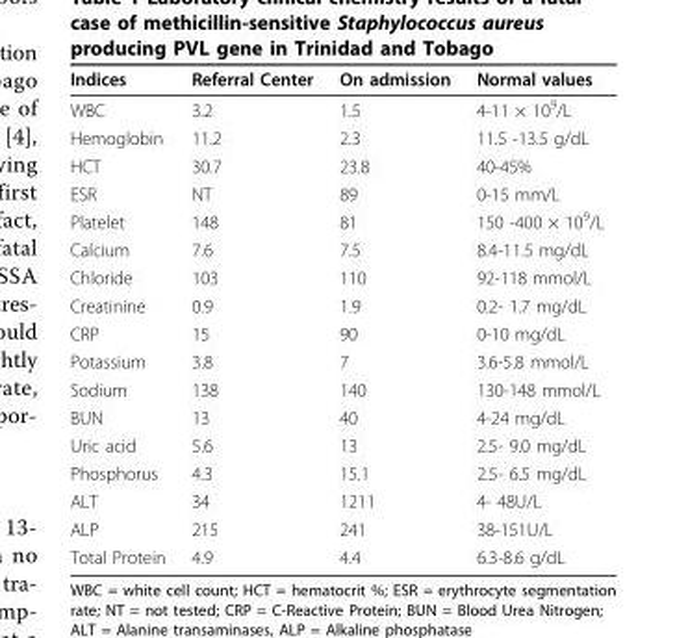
<table><thead><tr><td>Indices</td><td>Referral Center</td><td>On admission</td><td>Normal values</td></tr></thead><tbody><tr><td>WBC</td><td>3.2</td><td>1.5</td><td>4-11 × 10<sup>9</sup>/L</td></tr><tr><td>Hemoglobin</td><td>11.2</td><td>2.3</td><td>11.5 -13.5 g/dL</td></tr><tr><td>HCT</td><td>30.7</td><td>23.8</td><td>40-45%</td></tr><tr><td>ESR</td><td>NT</td><td>89</td><td>0-15 mm/L</td></tr><tr><td>Platelet</td><td>148</td><td>81</td><td>150 -400 × 10<sup>9</sup>/L</td></tr><tr><td>Calcium</td><td>7.6</td><td>7.5</td><td>8.4-11.5 mg/dL</td></tr><tr><td>Chloride</td><td>103</td><td>110</td><td>92-118 mmol/L</td></tr><tr><td>Creatinine</td><td>0.9</td><td>1.9</td><td>0.2- 1.7 mg/dL</td></tr><tr><td>CRP</td><td>15</td><td>90</td><td>0-10 mg/dL</td></tr><tr><td>Potassium</td><td>3.8</td><td>7</td><td>3.6-5.8 mmol/L</td></tr><tr><td>Sodium</td><td>138</td><td>140</td><td>130-148 mmol/L</td></tr><tr><td>BUN</td><td>13</td><td>40</td><td>4-24 mg/dL</td></tr><tr><td>Uric acid</td><td>5.6</td><td>13</td><td>2.5- 9.0 mg/dL</td></tr><tr><td>Phosphorus</td><td>4.3</td><td>15.1</td><td>2.5- 6.5 mg/dL</td></tr><tr><td>ALT</td><td>34</td><td>1211</td><td>4- 48U/L</td></tr><tr><td>ALP</td><td>215</td><td>241</td><td>38-151U/L</td></tr><tr><td>Total Protein</td><td>4.9</td><td>4.4</td><td>6.3-8.6 g/dL</td></tr></tbody></table>